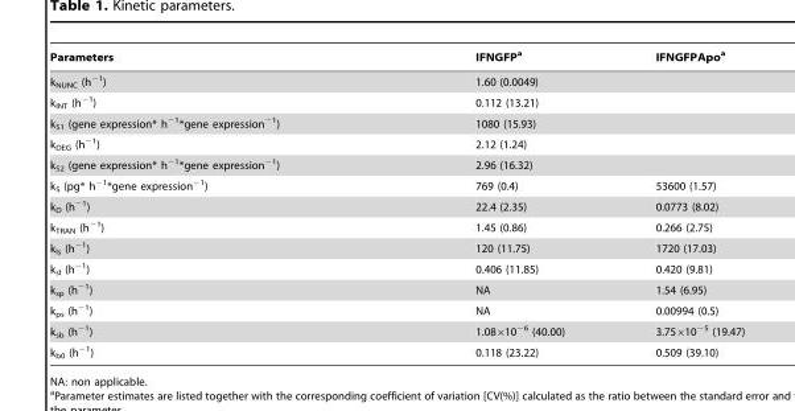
<table><thead><tr><td>Parameters</td><td>IFNGFP<sup>a</sup></td><td>IFNGFPApo<sup>a</sup></td></tr></thead><tbody><tr><td>k<sub>NUNC</sub> (h<sup>−1</sup>)</td><td colspan="2">1.60 (0.0049)</td></tr><tr><td>k<sub>INT</sub> (h<sup>−1</sup>)</td><td colspan="2">0.112 (13.21)</td></tr><tr><td>k<sub>S1</sub> (gene expression* h<sup>−1</sup>*gene expression<sup>−1</sup>)</td><td colspan="2">1080 (15.93)</td></tr><tr><td>k<sub>DEG</sub> (h<sup>−1</sup>)</td><td colspan="2">2.12 (1.24)</td></tr><tr><td>k<sub>S2</sub> (gene expression* h<sup>−1</sup>*gene expression<sup>−1</sup>)</td><td colspan="2">2.96 (16.32)</td></tr><tr><td>k<sub>S</sub> (pg* h<sup>−1</sup>*gene expression<sup>−1</sup>)</td><td>769 (0.4)</td><td>53600 (1.57)</td></tr><tr><td>k<sub>D</sub> (h<sup>−1</sup>)</td><td>22.4 (2.35)</td><td>0.0773 (8.02)</td></tr><tr><td>k<sub>TRAN</sub> (h<sup>−1</sup>)</td><td>1.45 (0.86)</td><td>0.266 (2.75)</td></tr><tr><td>k<sub>ls</sub> (h<sup>−1</sup>)</td><td>120 (11.75)</td><td>1720 (17.03)</td></tr><tr><td>k<sub>sl</sub> (h<sup>−1</sup>)</td><td>0.406 (11.85)</td><td>0.420 (9.81)</td></tr><tr><td>k<sub>sp</sub> (h<sup>−1</sup>)</td><td>NA</td><td>1.54 (6.95)</td></tr><tr><td>k<sub>ps</sub> (h<sup>−1</sup>)</td><td>NA</td><td>0.00994 (0.5)</td></tr><tr><td>k<sub>sb</sub> (h<sup>−1</sup>)</td><td>1.08×10<sup>−6</sup> (40.00)</td><td>3.75×10<sup>−5</sup> (19.47)</td></tr><tr><td>k<sub>b0</sub> (h<sup>−1</sup>)</td><td>0.118 (23.22)</td><td>0.509 (39.10)</td></tr></tbody></table>